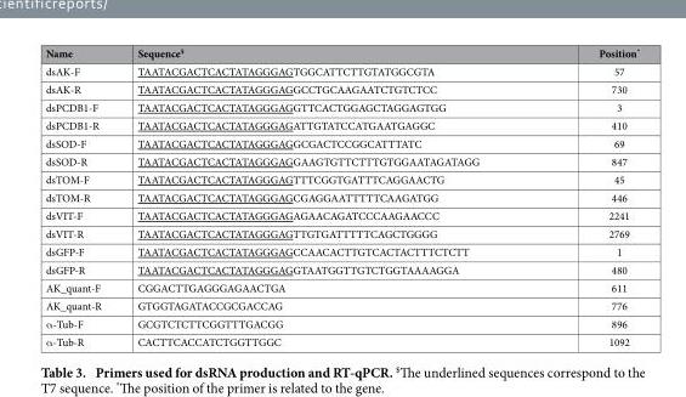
<table><thead><tr><td>Name</td><td>Sequence$</td><td>Position*</td></tr></thead><tbody><tr><td>dsAK-F</td><td>TAATACGACTCACTATAGGGAGTGGCATTCTTGTATGGCGTA</td><td>57</td></tr><tr><td>dsAK-R</td><td>TAATACGACTCACTATAGGGAGGCCTGCAAGAATCTGTCTCC</td><td>730</td></tr><tr><td>dsPCDB1-F</td><td>TAATACGACTCACTATAGGGAGGTTCACTGGAGCTAGGAGTGG</td><td>3</td></tr><tr><td>dsPCDB1-R</td><td>TAATACGACTCACTATAGGGAGATTGTATCCATGAATGAGGC</td><td>410</td></tr><tr><td>dsSOD-F</td><td>TAATACGACTCACTATAGGGAGGCGACTCCGGCATTTATC</td><td>69</td></tr><tr><td>dsSOD-R</td><td>TAATACGACTCACTATAGGGAGGAAGTGTTCTTTGTGGAATAGATAGG</td><td>847</td></tr><tr><td>dsTOM-F</td><td>TAATACGACTCACTATAGGGAGTTTCGGTGATTTCAGGAACTG</td><td>45</td></tr><tr><td>dsTOM-R</td><td>TAATACGACTCACTATAGGGAGCGAGGAATTTTTCAAGATGG</td><td>446</td></tr><tr><td>dsVIT-F</td><td>TAATACGACTCACTATAGGGAGAGAACAGATCCCAAGAACCC</td><td>2241</td></tr><tr><td>dsVIT-R</td><td>TAATACGACTCACTATAGGGAGTTGTGATTTTTCAGCTGGGG</td><td>2769</td></tr><tr><td>dsGFP-F</td><td>TAATACGACTCACTATAGGGAGCCAACACTTGTCACTACTTTCTCTT</td><td>1</td></tr><tr><td>dsGFP-R</td><td>TAATACGACTCACTATAGGGAGGTAATGGTTGTCTGGTAAAAGGA</td><td>480</td></tr><tr><td>AK_quant-F</td><td>CGGACTTGAGGGAGAACTGA</td><td>611</td></tr><tr><td>AK_quant-R</td><td>GTGGTAGATACCGCGACCAG</td><td>776</td></tr><tr><td>α -Tub-F</td><td>GCGTCTCTTCGGTTTGACGG</td><td>896</td></tr><tr><td>α -Tub-R</td><td>CACTTCACCATCTGGTTGGC</td><td>1092</td></tr></tbody></table>